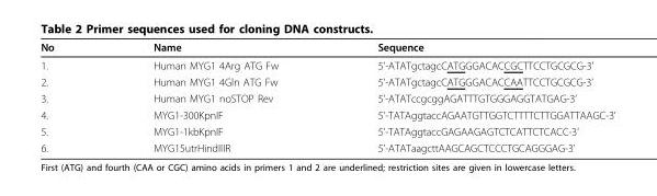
<table><thead><tr><td>No</td><td>Name</td><td>Sequence</td></tr></thead><tbody><tr><td>1.</td><td>Human MYG1 4Arg ATG Fw</td><td>5’-ATATgctagcCATGGGACACCGCTTCCTGCGCG-3’</td></tr><tr><td>2.</td><td>Human MYG1 4Gln ATG Fw</td><td>5’-ATATgctagcCATGGGACACCAATTCCTGCGCG-3’</td></tr><tr><td>3.</td><td>Human MYG1 noSTOP Rev</td><td>5’-ATATccgcggAGATTTGTGGGAGGTATGAG-3’</td></tr><tr><td>4.</td><td>MYG1-300KpnIF</td><td>5’-TATAggtaccAGAATGTTGGTCTTTTCTTGGATTAAGC-3’</td></tr><tr><td>5.</td><td>MYG1-1kbKpnIF</td><td>5’-TATAggtaccGAGAAGAGTCTCATTCTCACC-3’</td></tr><tr><td>6.</td><td>MYG15utrHindIIIR</td><td>5’-ATATaagcttAAGCAGCTCCCTGCAGGGAG-3’</td></tr></tbody></table>